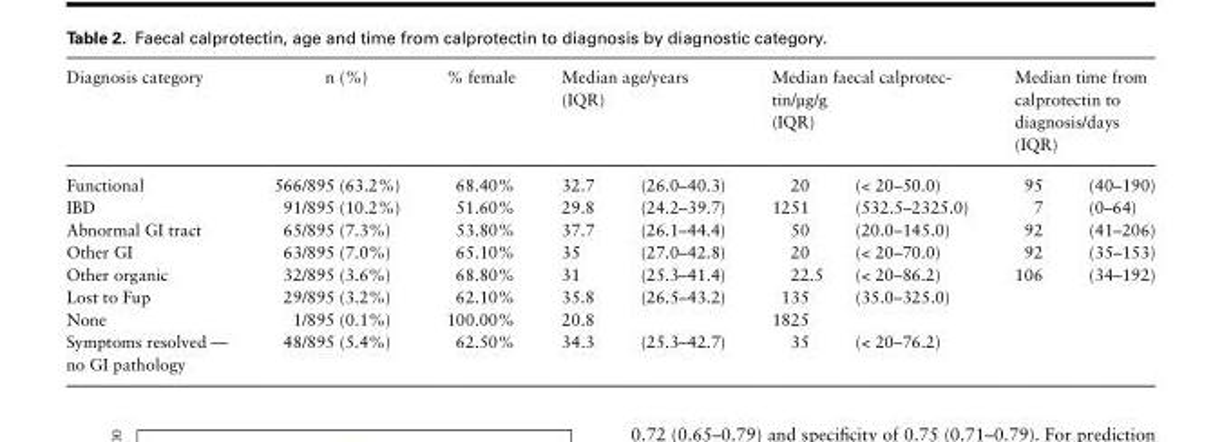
<table><thead><tr><td rowspan="2">Diagnosis category Functional</td><td rowspan="2">n (%) 566/895 (63.2%)</td><td rowspan="2">% female 68.40%</td><td colspan="2">Median age/years (IQR)</td><td colspan="2">Median faecal calprotec- tin/μg/g (IQR)</td><td colspan="2">Median time from calprotectin to diagnosis/days (IQR)</td></tr><tr><td>32.7</td><td>(26.0–40.3)</td><td>20</td><td>(&lt; 20–50.0)</td><td>95</td><td>(40–190)</td></tr></thead><tbody><tr><td>IBD</td><td>91/895 (10.2%)</td><td>51.60%</td><td>29.8</td><td>(24.2–39.7)</td><td>1251</td><td>(532.5–2325.0)</td><td>7</td><td>(0–64)</td></tr><tr><td>Abnormal GI tract</td><td>65/895 (7.3%)</td><td>53.80%</td><td>37.7</td><td>(26.1–44.4)</td><td>50</td><td>(20.0–145.0)</td><td>92</td><td>(41–206)</td></tr><tr><td>Other GI</td><td>63/895 (7.0%)</td><td>65.10%</td><td>35</td><td>(27.0–42.8)</td><td>20</td><td>(&lt; 20–70.0)</td><td>92</td><td>(35–153)</td></tr><tr><td>Other organic</td><td>32/895 (3.6%)</td><td>68.80%</td><td>31</td><td>(25.3–41.4)</td><td>22.5</td><td>(&lt; 20–86.2)</td><td>106</td><td>(34–192)</td></tr><tr><td>Lost to Fup</td><td>29/895 (3.2%)</td><td>62.10%</td><td>35.8</td><td>(26.5–43.2)</td><td>135</td><td>(35.0–325.0)</td><td></td><td></td></tr><tr><td>None</td><td>1/895 (0.1%)</td><td>100.00%</td><td>20.8</td><td></td><td>1825</td><td></td><td></td><td></td></tr><tr><td>Symptoms resolved — no GI pathology</td><td>48/895 (5.4%)</td><td>62.50%</td><td>34.3</td><td>(25.3–42.7)</td><td>35</td><td>(&lt; 20–76.2)</td><td></td><td></td></tr></tbody></table>